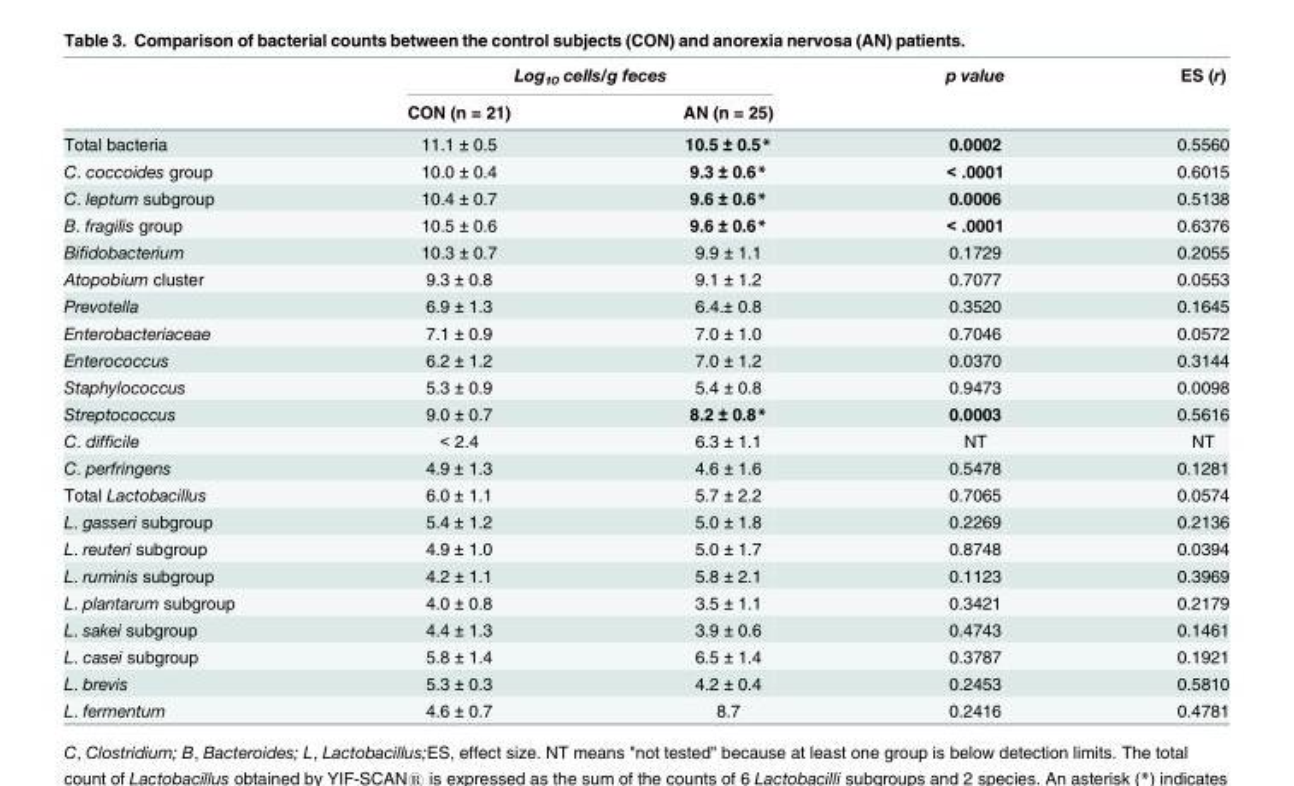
<table><thead><tr><td rowspan="2"></td><td colspan="2">Log<sub>10</sub> cells/g feces</td><td rowspan="2">p value</td><td rowspan="2">ES (r)</td></tr><tr><td>CON (n = 21)</td><td>AN (n = 25)</td></tr></thead><tbody><tr><td>Total bacteria</td><td>11.1 ± 0.5</td><td>10.5 ± 0.5*</td><td>0.0002</td><td>0.5560</td></tr><tr><td>C. coccoides group</td><td>10.0 ± 0.4</td><td>9.3 ± 0.6*</td><td>&lt; .0001</td><td>0.6015</td></tr><tr><td>C. leptum subgroup</td><td>10.4 ± 0.7</td><td>9.6 ± 0.6*</td><td>0.0006</td><td>0.5138</td></tr><tr><td>B. fragilis group</td><td>10.5 ± 0.6</td><td>9.6 ± 0.6*</td><td>&lt; .0001</td><td>0.6376</td></tr><tr><td>Bifidobacterium</td><td>10.3 ± 0.7</td><td>9.9 ± 1.1</td><td>0.1729</td><td>0.2055</td></tr><tr><td>Atopobium cluster</td><td>9.3 ± 0.8</td><td>9.1 ± 1.2</td><td>0.7077</td><td>0.0553</td></tr><tr><td>Prevotella</td><td>6.9 ± 1.3</td><td>6.4.± 0.8</td><td>0.3520</td><td>0.1645</td></tr><tr><td>Enterobacteriaceae</td><td>7.1 ± 0.9</td><td>7.0 ± 1.0</td><td>0.7046</td><td>0.0572</td></tr><tr><td>Enterococcus</td><td>6.2 ± 1.2</td><td>7.0 ± 1.2</td><td>0.0370</td><td>0.3144</td></tr><tr><td>Staphylococcus</td><td>5.3 ± 0.9</td><td>5.4 ± 0.8</td><td>0.9473</td><td>0.0098</td></tr><tr><td>Streptococcus</td><td>9.0 ± 0.7</td><td>8.2 ± 0.8*</td><td>0.0003</td><td>0.5616</td></tr><tr><td>C. difficile</td><td>&lt; 2.4</td><td>6.3 ± 1.1</td><td>NT</td><td>NT</td></tr><tr><td>C. perfringens</td><td>4.9 ± 1.3</td><td>4.6 ± 1.6</td><td>0.5478</td><td>0.1281</td></tr><tr><td>Total Lactobacillus</td><td>6.0 ± 1.1</td><td>5.7 ± 2.2</td><td>0.7065</td><td>0.0574</td></tr><tr><td>L. gasseri subgroup</td><td>5.4 ± 1.2</td><td>5.0 ± 1.8</td><td>0.2269</td><td>0.2136</td></tr><tr><td>L. reuteri subgroup</td><td>4.9 ± 1.0</td><td>5.0 ± 1.7</td><td>0.8748</td><td>0.0394</td></tr><tr><td>L. ruminis subgroup</td><td>4.2 ± 1.1</td><td>5.8 ± 2.1</td><td>0.1123</td><td>0.3969</td></tr><tr><td>L. plantarum subgroup</td><td>4.0 ± 0.8</td><td>3.5 ± 1.1</td><td>0.3421</td><td>0.2179</td></tr><tr><td>L. sakei subgroup</td><td>4.4 ± 1.3</td><td>3.9 ± 0.6</td><td>0.4743</td><td>0.1461</td></tr><tr><td>L. casei subgroup</td><td>5.8 ± 1.4</td><td>6.5 ± 1.4</td><td>0.3787</td><td>0.1921</td></tr><tr><td>L. brevis</td><td>5.3 ± 0.3</td><td>4.2 ± 0.4</td><td>0.2453</td><td>0.5810</td></tr><tr><td>L. fermentum</td><td>4.6 ± 0.7</td><td>8.7</td><td>0.2416</td><td>0.4781</td></tr></tbody></table>